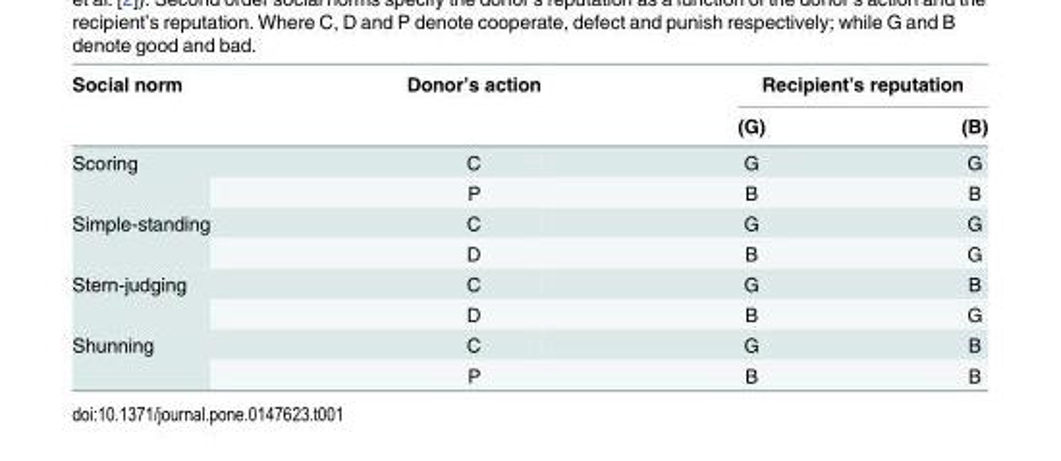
<table><thead><tr><td rowspan="2">Social norm</td><td rowspan="2">Donor’s action</td><td colspan="2">Recipient’s reputation</td></tr><tr><td>(G)</td><td>(B)</td></tr></thead><tbody><tr><td rowspan="2">Scoring</td><td>C</td><td>G</td><td>G</td></tr><tr><td>P</td><td>B</td><td>B</td></tr><tr><td rowspan="2">Simple-standing</td><td>C</td><td>G</td><td>G</td></tr><tr><td>D</td><td>B</td><td>G</td></tr><tr><td rowspan="2">Stern-judging</td><td>C</td><td>G</td><td>B</td></tr><tr><td>D</td><td>B</td><td>G</td></tr><tr><td rowspan="2">Shunning</td><td>C</td><td>G</td><td>B</td></tr><tr><td>P</td><td>B</td><td>B</td></tr></tbody></table>